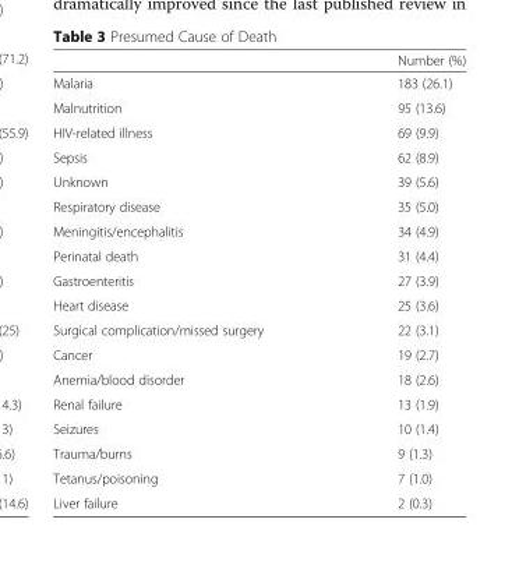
<table><thead><tr><td></td><td>Number (%)</td></tr></thead><tbody><tr><td>Malaria</td><td>183 (26.1)</td></tr><tr><td>Malnutrition</td><td>95 (13.6)</td></tr><tr><td>HIV-related illness</td><td>69 (9.9)</td></tr><tr><td>Sepsis</td><td>62 (8.9)</td></tr><tr><td>Unknown</td><td>39 (5.6)</td></tr><tr><td>Respiratory disease</td><td>35 (5.0)</td></tr><tr><td>Meningitis/encephalitis</td><td>34 (4.9)</td></tr><tr><td>Perinatal death</td><td>31 (4.4)</td></tr><tr><td>Gastroenteritis</td><td>27 (3.9)</td></tr><tr><td>Heart disease</td><td>25 (3.6)</td></tr><tr><td>Surgical complication/missed surgery</td><td>22 (3.1)</td></tr><tr><td>Cancer</td><td>19 (2.7)</td></tr><tr><td>Anemia/blood disorder</td><td>18 (2.6)</td></tr><tr><td>Renal failure</td><td>13 (1.9)</td></tr><tr><td>Seizures</td><td>10 (1.4)</td></tr><tr><td>Trauma/burns</td><td>9 (1.3)</td></tr><tr><td>Tetanus/poisoning</td><td>7 (1.0)</td></tr><tr><td>Liver failure</td><td>2 (0.3)</td></tr></tbody></table>